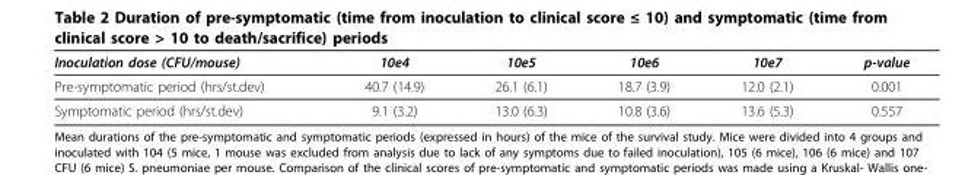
<table><thead><tr><td>Inoculation dose (CFU/mouse)</td><td>10e4</td><td>10e5</td><td>10e6</td><td>10e7</td><td>p-value</td></tr></thead><tbody><tr><td>Pre-symptomatic period (hrs/st.dev)</td><td>40.7 (14.9)</td><td>26.1 (6.1)</td><td>18.7 (3.9)</td><td>12.0 (2.1)</td><td>0.001</td></tr><tr><td>Symptomatic period (hrs/st.dev)</td><td>9.1 (3.2)</td><td>13.0 (6.3)</td><td>10.8 (3.6)</td><td>13.6 (5.3)</td><td>0.557</td></tr></tbody></table>